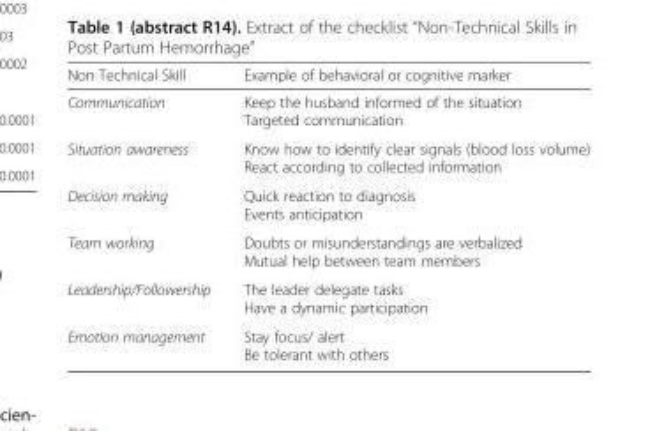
<table><thead><tr><td>Non Technical Skill</td><td>Example of behavioral or cognitive marker</td></tr></thead><tbody><tr><td>Communication</td><td>Keep the husband informed of the situation Targeted communication</td></tr><tr><td>Situation awareness</td><td>Know how to identify clear signals (blood loss volume) React according to collected information</td></tr><tr><td>Decision making</td><td>Quick reaction to diagnosis Events anticipation</td></tr><tr><td>Team working</td><td>Doubts or misunderstandings are verbalized Mutual help between team members</td></tr><tr><td>Leadership/Followership</td><td>The leader delegate tasks Have a dynamic participation</td></tr><tr><td>Emotion management</td><td>Stay focus/ alert Be tolerant with others</td></tr></tbody></table>